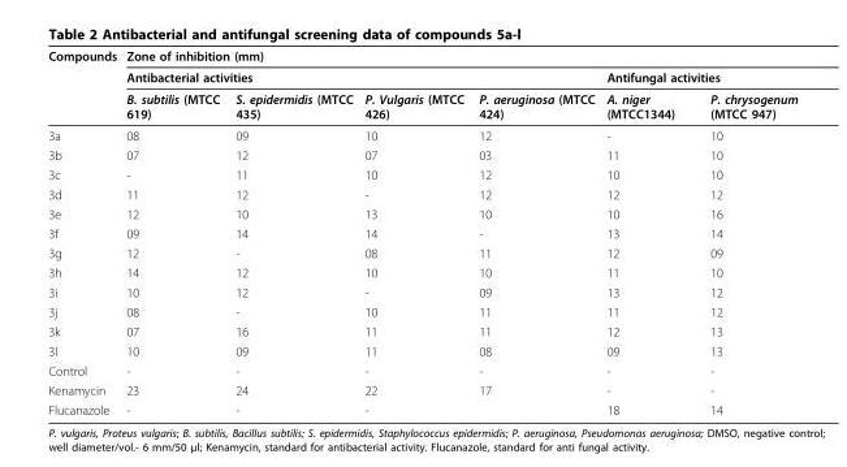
<table><thead><tr><td rowspan="3">Compounds</td><td colspan="6">Zone of inhibition (mm)</td></tr><tr><td colspan="4">Antibacterial activities</td><td colspan="2">Antifungal activities</td></tr><tr><td>B. subtilis (MTCC 619)</td><td>S. epidermidis (MTCC 435)</td><td>P. Vulgaris (MTCC 426)</td><td>P. aeruginosa (MTCC 424)</td><td>A. niger (MTCC1344)</td><td>P. chrysogenum (MTCC 947)</td></tr></thead><tbody><tr><td>3a</td><td>08</td><td>09</td><td>10</td><td>12</td><td>-</td><td>10</td></tr><tr><td>3b</td><td>07</td><td>12</td><td>07</td><td>03</td><td>11</td><td>10</td></tr><tr><td>3c</td><td>-</td><td>11</td><td>10</td><td>12</td><td>10</td><td>10</td></tr><tr><td>3d</td><td>11</td><td>12</td><td>-</td><td>12</td><td>12</td><td>12</td></tr><tr><td>3e</td><td>12</td><td>10</td><td>13</td><td>10</td><td>10</td><td>16</td></tr><tr><td>3f</td><td>09</td><td>14</td><td>14</td><td>-</td><td>13</td><td>14</td></tr><tr><td>3g</td><td>12</td><td>-</td><td>08</td><td>11</td><td>12</td><td>09</td></tr><tr><td>3h</td><td>14</td><td>12</td><td>10</td><td>10</td><td>11</td><td>10</td></tr><tr><td>3i</td><td>10</td><td>12</td><td>-</td><td>09</td><td>13</td><td>12</td></tr><tr><td>3j</td><td>08</td><td>-</td><td>10</td><td>11</td><td>11</td><td>12</td></tr><tr><td>3k</td><td>07</td><td>16</td><td>11</td><td>11</td><td>12</td><td>13</td></tr><tr><td>3l</td><td>10</td><td>09</td><td>11</td><td>08</td><td>09</td><td>13</td></tr><tr><td>Control</td><td>-</td><td>-</td><td>-</td><td>-</td><td>-</td><td>-</td></tr><tr><td>Kenamycin</td><td>23</td><td>24</td><td>22</td><td>17</td><td>-</td><td>-</td></tr><tr><td>Flucanazole</td><td>-</td><td>-</td><td>-</td><td></td><td>18</td><td>14</td></tr></tbody></table>